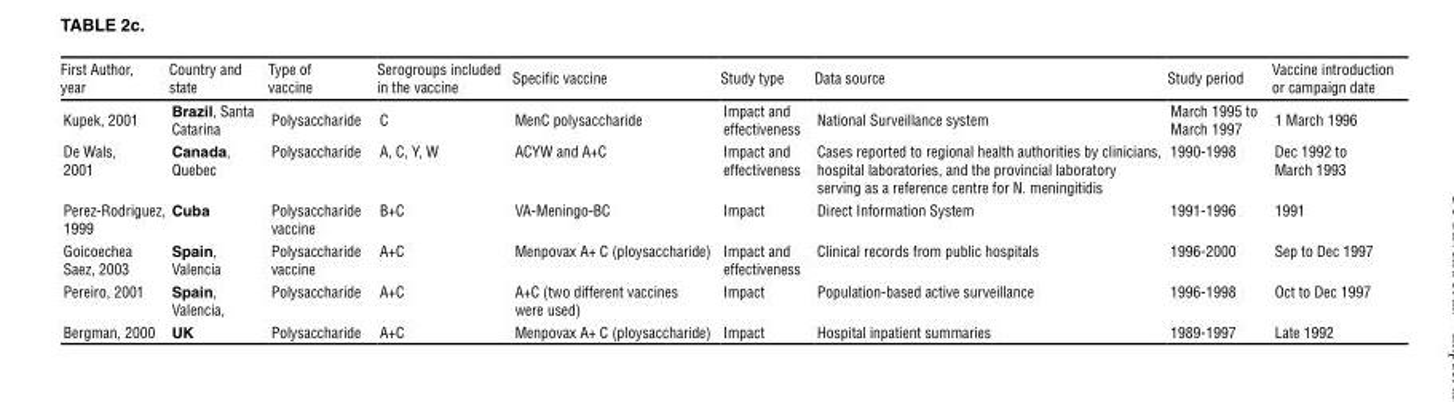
<table><thead><tr><td>First Author, year</td><td>Country and state</td><td>Type of vaccine</td><td>Serogroups included in the vaccine</td><td>Specific vaccine</td><td>Study type</td><td>Data source</td><td>Study period</td><td>Vaccine introduction or campaign date</td></tr></thead><tbody><tr><td>Kupek, 2001</td><td>Brazil, Santa Catarina</td><td>Polysaccharide</td><td>C</td><td>MenC polysaccharide</td><td>Impact and effectiveness</td><td>National Surveillance system</td><td>March 1995 to March 1997</td><td>1 March 1996</td></tr><tr><td>De Wals, 2001</td><td>Canada, Quebec</td><td>Polysaccharide</td><td>A, C, Y, W</td><td>ACYW and A+C</td><td>Impact and effectiveness</td><td>Cases reported to regional health authorities by clinicians, hospital laboratories, and the provincial laboratory serving as a reference centre for N. meningitidis</td><td>1990-1998</td><td>Dec 1992 to March 1993</td></tr><tr><td>Perez-Rodriguez, 1999</td><td>Cuba</td><td>Polysaccharide vaccine</td><td>B+C</td><td>VA-Meningo-BC</td><td>Impact</td><td>Direct Information System</td><td>1991-1996</td><td>1991</td></tr><tr><td>Goicoechea Saez, 2003</td><td>Spain, Valencia</td><td>Polysaccharide vaccine</td><td>A+C</td><td>Menpovax A+ C (ploysaccharide)</td><td>Impact and effectiveness</td><td>Clinical records from public hospitals</td><td>1996-2000</td><td>Sep to Dec 1997</td></tr><tr><td>Pereiro, 2001</td><td>Spain, Valencia,</td><td>Polysaccharide</td><td>A+C</td><td>A+C (two different vaccines were used)</td><td>Impact</td><td>Population-based active surveillance</td><td>1996-1998</td><td>Oct to Dec 1997</td></tr><tr><td>Bergman, 2000</td><td>UK</td><td>Polysaccharide</td><td>A+C</td><td>Menpovax A+ C (ploysaccharide)</td><td>Impact</td><td>Hospital inpatient summaries</td><td>1989-1997</td><td>Late 1992</td></tr></tbody></table>